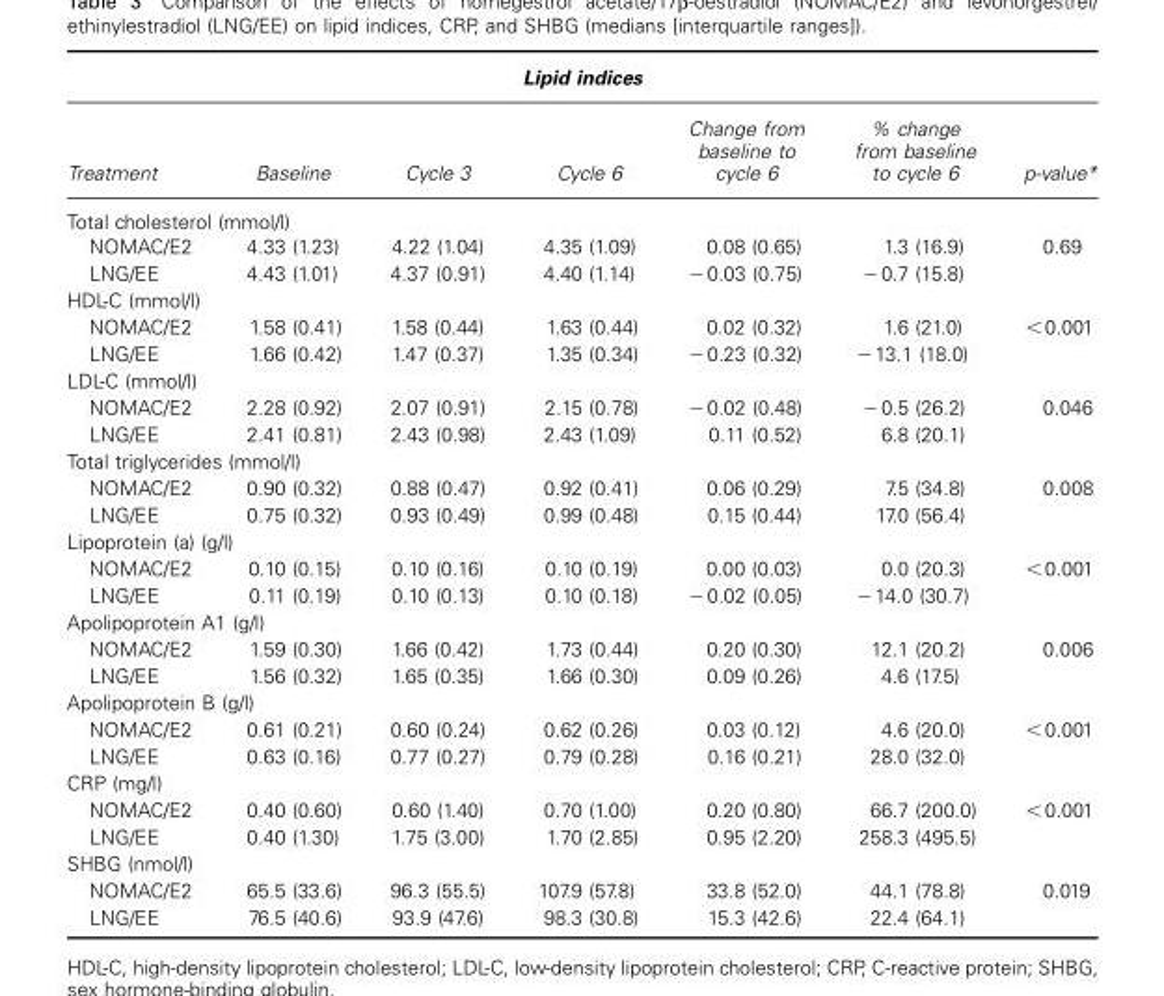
<table><thead><tr><td colspan="7">Lipid indices</td></tr><tr><td>Treatment</td><td>Baseline</td><td>Cycle 3</td><td>Cycle 6</td><td>Change from baseline to cycle 6</td><td>% change from baseline to cycle 6</td><td>p-value *</td></tr></thead><tbody><tr><td colspan="7">Total cholesterol (mmol/l)</td></tr><tr><td>NOMAC/E2</td><td>4.33 (1.23)</td><td>4.22 (1.04)</td><td>4.35 (1.09)</td><td>0.08 (0.65)</td><td>1.3 (16.9)</td><td>0.69</td></tr><tr><td>LNG/EE</td><td>4.43 (1.01)</td><td>4.37 (0.91)</td><td>4.40 (1.14)</td><td>− 0.03 (0.75)</td><td>− 0.7 (15.8)</td><td></td></tr><tr><td colspan="7">HDL-C (mmol/l)</td></tr><tr><td>NOMAC/E2</td><td>1.58 (0.41)</td><td>1.58 (0.44)</td><td>1.63 (0.44)</td><td>0.02 (0.32)</td><td>1.6 (21.0)</td><td>&lt; 0.001</td></tr><tr><td>LNG/EE</td><td>1.66 (0.42)</td><td>1.47 (0.37)</td><td>1.35 (0.34)</td><td>− 0.23 (0.32)</td><td>− 13.1 (18.0)</td><td></td></tr><tr><td colspan="7">LDL-C (mmol/l)</td></tr><tr><td>NOMAC/E2</td><td>2.28 (0.92)</td><td>2.07 (0.91)</td><td>2.15 (0.78)</td><td>− 0.02 (0.48)</td><td>− 0.5 (26.2)</td><td>0.046</td></tr><tr><td>LNG/EE</td><td>2.41 (0.81)</td><td>2.43 (0.98)</td><td>2.43 (1.09)</td><td>0.11 (0.52)</td><td>6.8 (20.1)</td><td></td></tr><tr><td colspan="7">Total triglycerides (mmol/l)</td></tr><tr><td>NOMAC/E2</td><td>0.90 (0.32)</td><td>0.88 (0.47)</td><td>0.92 (0.41)</td><td>0.06 (0.29)</td><td>7.5 (34.8)</td><td>0.008</td></tr><tr><td>LNG/EE</td><td>0.75 (0.32)</td><td>0.93 (0.49)</td><td>0.99 (0.48)</td><td>0.15 (0.44)</td><td>17.0 (56.4)</td><td></td></tr><tr><td colspan="7">Lipoprotein (a) (g/l)</td></tr><tr><td>NOMAC/E2</td><td>0.10 (0.15)</td><td>0.10 (0.16)</td><td>0.10 (0.19)</td><td>0.00 (0.03)</td><td>0.0 (20.3)</td><td>&lt; 0.001</td></tr><tr><td>LNG/EE</td><td>0.11 (0.19)</td><td>0.10 (0.13)</td><td>0.10 (0.18)</td><td>− 0.02 (0.05)</td><td>− 14.0 (30.7)</td><td></td></tr><tr><td colspan="7">Apolipoprotein A1 (g/l)</td></tr><tr><td>NOMAC/E2</td><td>1.59 (0.30)</td><td>1.66 (0.42)</td><td>1.73 (0.44)</td><td>0.20 (0.30)</td><td>12.1 (20.2)</td><td>0.006</td></tr><tr><td>LNG/EE</td><td>1.56 (0.32)</td><td>1.65 (0.35)</td><td>1.66 (0.30)</td><td>0.09 (0.26)</td><td>4.6 (17.5)</td><td></td></tr><tr><td colspan="7">Apolipoprotein B (g/l)</td></tr><tr><td>NOMAC/E2</td><td>0.61 (0.21)</td><td>0.60 (0.24)</td><td>0.62 (0.26)</td><td>0.03 (0.12)</td><td>4.6 (20.0)</td><td>&lt; 0.001</td></tr><tr><td>LNG/EE</td><td>0.63 (0.16)</td><td>0.77 (0.27)</td><td>0.79 (0.28)</td><td>0.16 (0.21)</td><td>28.0 (32.0)</td><td></td></tr><tr><td colspan="7">CRP (mg/l)</td></tr><tr><td>NOMAC/E2</td><td>0.40 (0.60)</td><td>0.60 (1.40)</td><td>0.70 (1.00)</td><td>0.20 (0.80)</td><td>66.7 (200.0)</td><td>&lt; 0.001</td></tr><tr><td>LNG/EE</td><td>0.40 (1.30)</td><td>1.75 (3.00)</td><td>1.70 (2.85)</td><td>0.95 (2.20)</td><td>258.3 (495.5)</td><td></td></tr><tr><td colspan="7">SHBG (nmol/l)</td></tr><tr><td>NOMAC/E2</td><td>65.5 (33.6)</td><td>96.3 (55.5)</td><td>107.9 (57.8)</td><td>33.8 (52.0)</td><td>44.1 (78.8)</td><td>0.019</td></tr><tr><td>LNG/EE</td><td>76.5 (40.6)</td><td>93.9 (47.6)</td><td>98.3 (30.8)</td><td>15.3 (42.6)</td><td>22.4 (64.1)</td><td></td></tr></tbody></table>